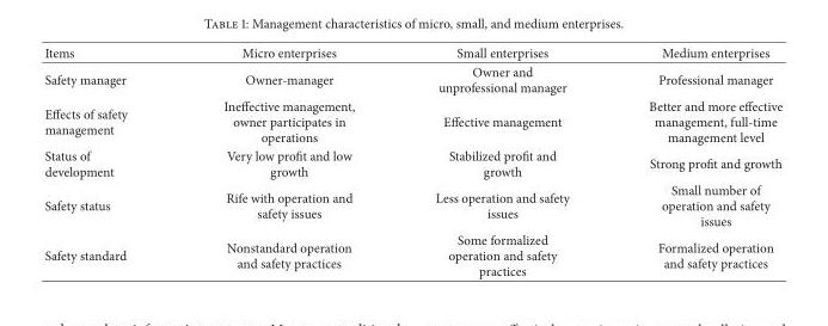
<table><thead><tr><td>Items</td><td>Micro enterprises</td><td>Small enterprises</td><td>Medium enterprises</td></tr></thead><tbody><tr><td>Safety manager</td><td>Owner-manager</td><td>Owner and unprofessional manager</td><td>Professional manager</td></tr><tr><td>Effects of safety management</td><td>Ineffective management, owner participates in operations</td><td>Effective management</td><td>Better and more effective management, full-time management level</td></tr><tr><td>Status of development</td><td>Very low profit and low growth</td><td>Stabilized profit and growth</td><td>Strong profit and growth</td></tr><tr><td>Safety status</td><td>Rife with operation and safety issues</td><td>Less operation and safety issues</td><td>Small number of operation and safety issues</td></tr><tr><td>Safety standard</td><td>Nonstandard operation and safety practices</td><td>Some formalized operation and safety practices</td><td>Formalized operation and safety practices</td></tr></tbody></table>